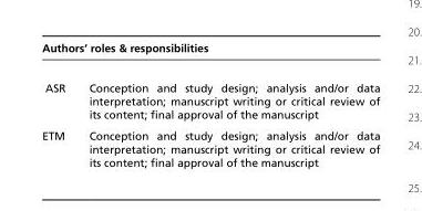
<table><thead><tr><td colspan="2">Authors’ roles &amp; responsibilities</td></tr><tr><td>ASR</td><td>Conception and study design; analysis and/or data interpretation; manuscript writing or critical review of its content; final approval of the manuscript</td></tr></thead><tbody><tr><td>ETM</td><td>Conception and study design; analysis and/or data interpretation; manuscript writing or critical review of its content; final approval of the manuscript</td></tr></tbody></table>